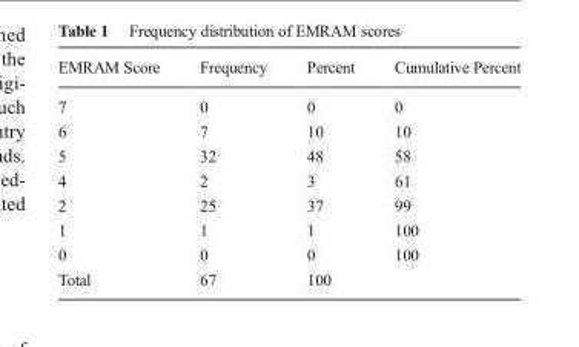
<table><thead><tr><td>EMRAM Score</td><td>Frequency</td><td>Percent</td><td>Cumulative Percent</td></tr></thead><tbody><tr><td>7</td><td>0</td><td>0</td><td>0</td></tr><tr><td>6</td><td>7</td><td>10</td><td>10</td></tr><tr><td>5</td><td>32</td><td>48</td><td>58</td></tr><tr><td>4</td><td>2</td><td>3</td><td>61</td></tr><tr><td>2</td><td>25</td><td>37</td><td>99</td></tr><tr><td>1</td><td>1</td><td>1</td><td>100</td></tr><tr><td>0</td><td>0</td><td>0</td><td>100</td></tr><tr><td>Total</td><td>67</td><td>100</td><td></td></tr></tbody></table>